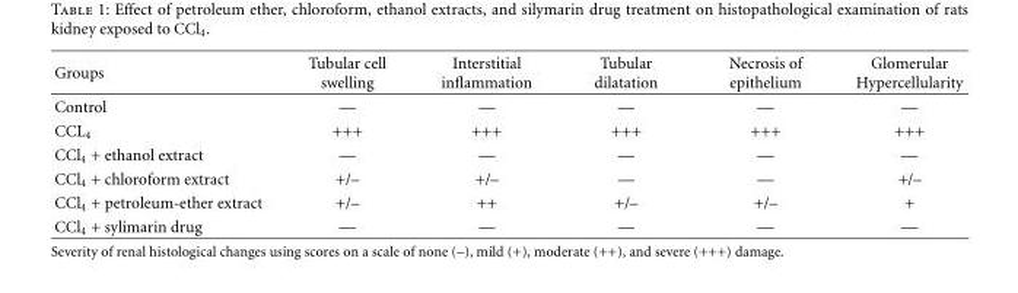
<table><thead><tr><td>Groups</td><td>Tubular cell swelling</td><td>Interstitial inflammation</td><td>Tubular dilatation</td><td>Necrosis of epithelium</td><td>Glomerular Hypercellularity</td></tr></thead><tbody><tr><td>Control</td><td>—</td><td>—</td><td>—</td><td>—</td><td>—</td></tr><tr><td>CCL<sub>4</sub></td><td>+++</td><td>+++</td><td>+++</td><td>+++</td><td>+++</td></tr><tr><td>CCl<sub>4</sub> + ethanol extract</td><td>—</td><td>—</td><td>—</td><td>—</td><td>—</td></tr><tr><td>CCl<sub>4</sub> + chloroform extract</td><td>+/–</td><td>+/–</td><td>—</td><td>—</td><td>+/–</td></tr><tr><td>CCl<sub>4</sub> + petroleum-ether extract</td><td>+/–</td><td>++</td><td>+/–</td><td>+/–</td><td>+</td></tr><tr><td>CCl<sub>4</sub> + sylimarin drug</td><td>—</td><td>—</td><td>—</td><td>—</td><td>—</td></tr></tbody></table>